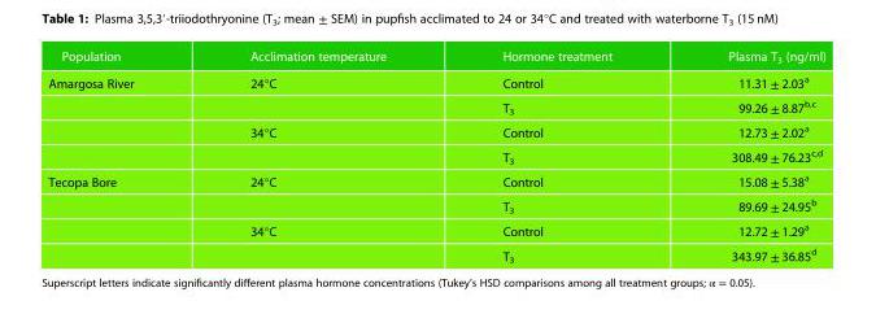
<table><thead><tr><td>Population</td><td>Acclimation temperature</td><td>Hormone treatment</td><td>Plasma T<sub>3</sub> (ng/ml)</td></tr></thead><tbody><tr><td rowspan="4">Amargosa River</td><td>24°C</td><td>Control</td><td>11.31 ± 2.03<sup>a</sup></td></tr><tr><td></td><td>T<sub>3</sub></td><td>99.26 ± 8.87<sup>b,c</sup></td></tr><tr><td>34°C</td><td>Control</td><td>12.73 ± 2.02<sup>a</sup></td></tr><tr><td></td><td>T<sub>3</sub></td><td>308.49 ± 76.23<sup>c,d</sup></td></tr><tr><td rowspan="4">Tecopa Bore</td><td>24°C</td><td>Control</td><td>15.08 ± 5.38<sup>a</sup></td></tr><tr><td></td><td>T<sub>3</sub></td><td>89.69 ± 24.95<sup>b</sup></td></tr><tr><td>34°C</td><td>Control</td><td>12.72 ± 1.29<sup>a</sup></td></tr><tr><td></td><td>T<sub>3</sub></td><td>343.97 ± 36.85<sup>d</sup></td></tr></tbody></table>